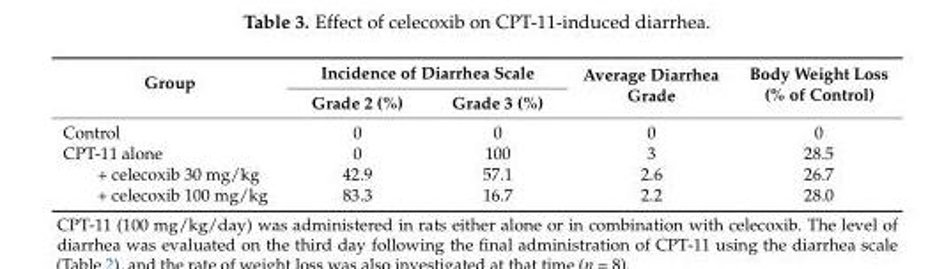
<table><thead><tr><td rowspan="2">Group</td><td colspan="2">Incidence of Diarrhea Scale</td><td rowspan="2">Average Diarrhea Grade</td><td rowspan="2">Body Weight Loss (% of Control)</td></tr><tr><td>Grade 2 (%)</td><td>Grade 3 (%)</td></tr></thead><tbody><tr><td>Control</td><td>0</td><td>0</td><td>0</td><td>0</td></tr><tr><td>CPT-11 alone</td><td>0</td><td>100</td><td>3</td><td>28.5</td></tr><tr><td>+ celecoxib 30 mg/kg</td><td>42.9</td><td>57.1</td><td>2.6</td><td>26.7</td></tr><tr><td>+ celecoxib 100 mg/kg</td><td>83.3</td><td>16.7</td><td>2.2</td><td>28.0</td></tr></tbody></table>